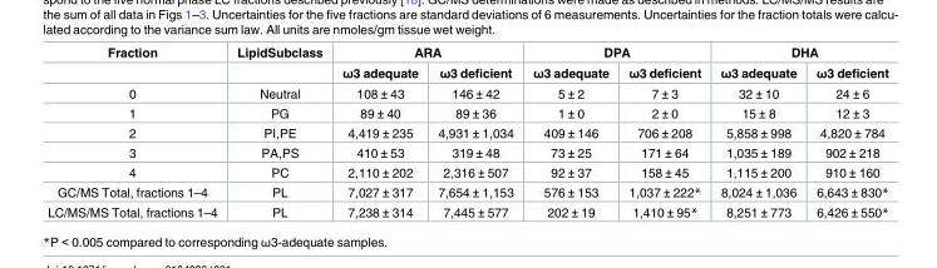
<table><thead><tr><td rowspan="2">Fraction</td><td rowspan="2">LipidSubclass</td><td colspan="2">ARA</td><td colspan="2">DPA</td><td colspan="2">DHA</td></tr><tr><td>ω3 adequate</td><td>ω3 deficient</td><td>ω3 adequate</td><td>ω3 deficient</td><td>ω3 adequate</td><td>ω3 deficient</td></tr></thead><tbody><tr><td>0</td><td>Neutral</td><td>108 ± 43</td><td>146 ± 42</td><td>5 ± 2</td><td>7 ± 3</td><td>32 ± 10</td><td>24 ± 6</td></tr><tr><td>1</td><td>PG</td><td>89 ± 40</td><td>89 ± 36</td><td>1 ± 0</td><td>2 ± 0</td><td>15 ± 8</td><td>12 ± 3</td></tr><tr><td>2</td><td>PI,PE</td><td>4,419 ± 235</td><td>4,931 ± 1,034</td><td>409 ± 146</td><td>706 ± 208</td><td>5,858 ± 998</td><td>4,820 ± 784</td></tr><tr><td>3</td><td>PA,PS</td><td>410 ± 53</td><td>319 ± 48</td><td>73 ± 25</td><td>171 ± 64</td><td>1,035 ± 189</td><td>902 ± 218</td></tr><tr><td>4</td><td>PC</td><td>2,110 ± 202</td><td>2,316 ± 507</td><td>92 ± 37</td><td>158 ± 45</td><td>1,115 ± 200</td><td>910 ± 160</td></tr><tr><td>GC/MS Total, fractions 1–4</td><td>PL</td><td>7,027 ± 317</td><td>7,654 ± 1,153</td><td>576 ± 153</td><td>1,037 ± 222*</td><td>8,024 ± 1,036</td><td>6,643 ± 830*</td></tr><tr><td>LC/MS/MS Total, fractions 1–4</td><td>PL</td><td>7,238 ± 314</td><td>7,445 ± 577</td><td>202 ± 19</td><td>1,410 ± 95*</td><td>8,251 ± 773</td><td>6,426 ± 550*</td></tr></tbody></table>